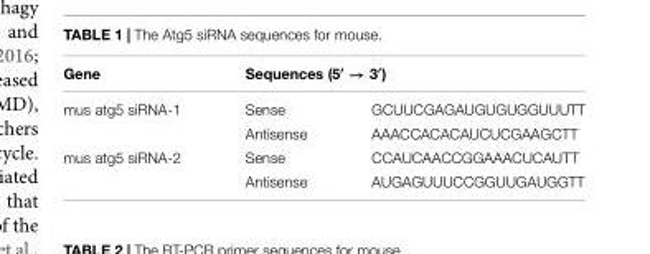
<table><thead><tr><td rowspan="2">Gene mus atg5 siRNA-1</td><td colspan="2">Sequences (5′ → 3′)</td></tr><tr><td>Sense</td><td>GCUUCGAGAUGUGUGGUUUTT</td></tr></thead><tbody><tr><td></td><td>Antisense</td><td>AAACCACACAUCUCGAAGCTT</td></tr><tr><td rowspan="2">mus atg5 siRNA-2</td><td>Sense</td><td>CCAUCAACCGGAAACUCAUTT</td></tr><tr><td>Antisense</td><td>AUGAGUUUCCGGUUGAUGGTT</td></tr></tbody></table>